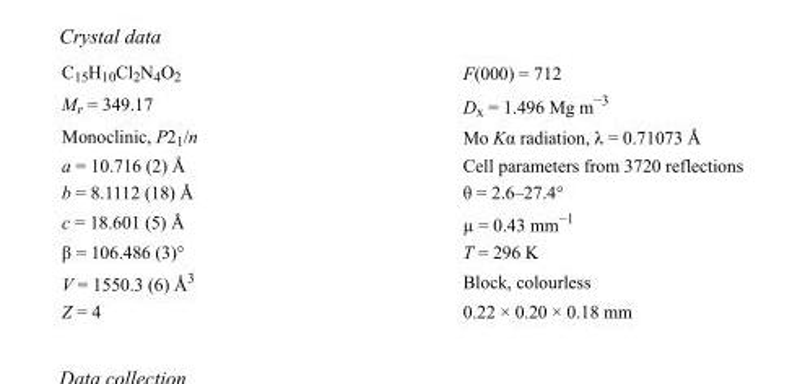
<table><tbody><tr><td>C<sub>15</sub>H<sub>10</sub>Cl<sub>2</sub>N<sub>4</sub>O<sub>2</sub></td><td>F(000) = 712</td></tr><tr><td>M<sub>r</sub> = 349.17</td><td>D<sub>x</sub> = 1.496 Mg m<sup>−3</sup></td></tr><tr><td>Monoclinic, P2<sub>1</sub>/n</td><td>Mo Kα radiation, λ = 0.71073 Å</td></tr><tr><td>a = 10.716 (2) Å</td><td>Cell parameters from 3720 reflections</td></tr><tr><td>b = 8.1112 (18) Å</td><td>θ = 2.6–27.4°</td></tr><tr><td>c = 18.601 (5) Å</td><td>µ = 0.43 mm<sup>−1</sup></td></tr><tr><td>β = 106.486 (3)°</td><td>T = 296 K</td></tr><tr><td>V = 1550.3 (6) Å<sup>3</sup></td><td>Block, colourless</td></tr><tr><td>Z = 4</td><td>0.22 × 0.20 × 0.18 mm</td></tr></tbody></table>